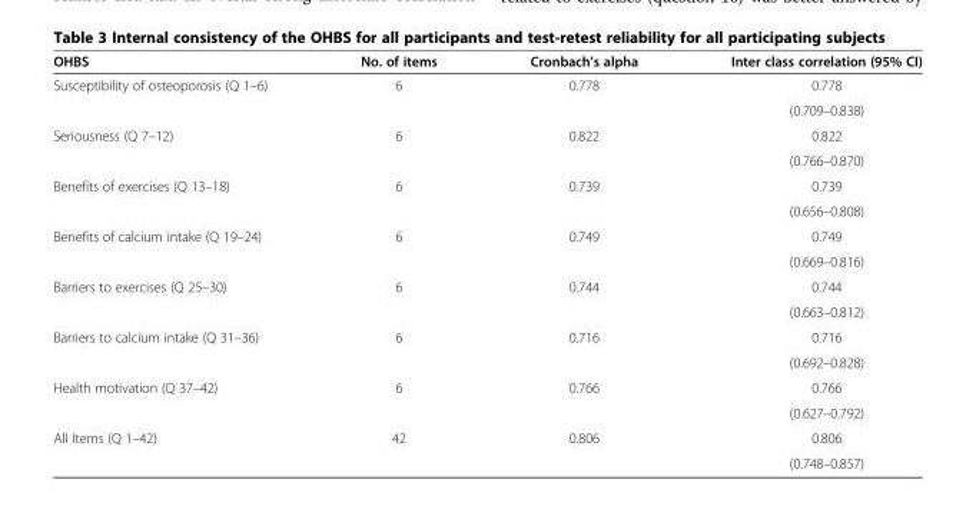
<table><thead><tr><td>OHBS</td><td>No. of items</td><td>Cronbach’s alpha</td><td>Inter class correlation (95% CI)</td></tr></thead><tbody><tr><td rowspan="2">Susceptibility of osteoporosis (Q 1–6)</td><td rowspan="2">6</td><td rowspan="2">0.778</td><td>0.778</td></tr><tr><td>(0.709–0.838)</td></tr><tr><td rowspan="2">Seriousness (Q 7–12)</td><td rowspan="2">6</td><td rowspan="2">0.822</td><td>0.822</td></tr><tr><td>(0.766–0.870)</td></tr><tr><td rowspan="2">Benefits of exercises (Q 13–18)</td><td rowspan="2">6</td><td rowspan="2">0.739</td><td>0.739</td></tr><tr><td>(0.656–0.808)</td></tr><tr><td rowspan="2">Benefits of calcium intake (Q 19–24)</td><td rowspan="2">6</td><td rowspan="2">0.749</td><td>0.749</td></tr><tr><td>(0.669–0.816)</td></tr><tr><td rowspan="2">Barriers to exercises (Q 25–30)</td><td rowspan="2">6</td><td rowspan="2">0.744</td><td>0.744</td></tr><tr><td>(0.663–0.812)</td></tr><tr><td rowspan="2">Barriers to calcium intake (Q 31–36)</td><td rowspan="2">6</td><td rowspan="2">0.716</td><td>0.716</td></tr><tr><td>(0.692–0.828)</td></tr><tr><td rowspan="2">Health motivation (Q 37–42)</td><td rowspan="2">6</td><td rowspan="2">0.766</td><td>0.766</td></tr><tr><td>(0.627–0.792)</td></tr><tr><td rowspan="2">All Items (Q 1–42)</td><td>42</td><td>0.806</td><td>0.806</td></tr><tr><td></td><td></td><td>(0.748–0.857)</td></tr></tbody></table>